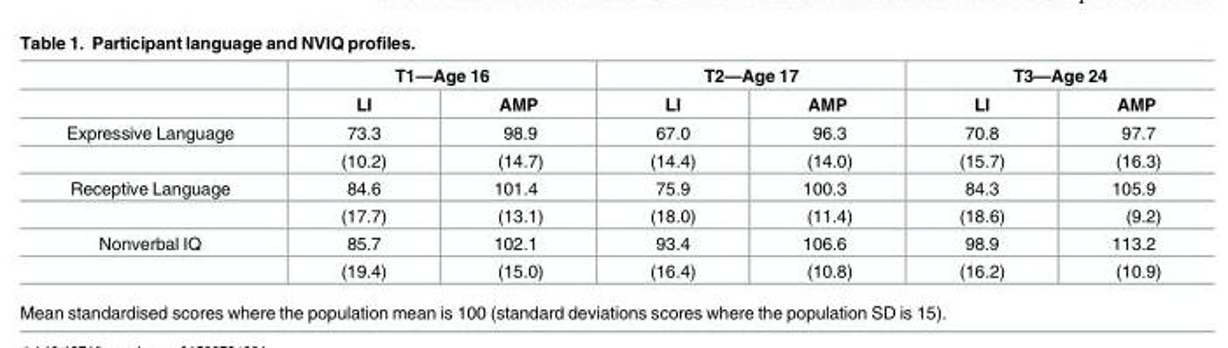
<table><thead><tr><td rowspan="2"></td><td colspan="2">T1—Age 16</td><td colspan="2">T2—Age 17</td><td colspan="2">T3—Age 24</td></tr><tr><td>LI</td><td>AMP</td><td>LI</td><td>AMP</td><td>LI</td><td>AMP</td></tr></thead><tbody><tr><td rowspan="2">Expressive Language</td><td>73.3</td><td>98.9</td><td>67.0</td><td>96.3</td><td>70.8</td><td>97.7</td></tr><tr><td>(10.2)</td><td>(14.7)</td><td>(14.4)</td><td>(14.0)</td><td>(15.7)</td><td>(16.3)</td></tr><tr><td rowspan="2">Receptive Language</td><td>84.6</td><td>101.4</td><td>75.9</td><td>100.3</td><td>84.3</td><td>105.9</td></tr><tr><td>(17.7)</td><td>(13.1)</td><td>(18.0)</td><td>(11.4)</td><td>(18.6)</td><td>(9.2)</td></tr><tr><td rowspan="2">Nonverbal IQ</td><td>85.7</td><td>102.1</td><td>93.4</td><td>106.6</td><td>98.9</td><td>113.2</td></tr><tr><td>(19.4)</td><td>(15.0)</td><td>(16.4)</td><td>(10.8)</td><td>(16.2)</td><td>(10.9)</td></tr></tbody></table>